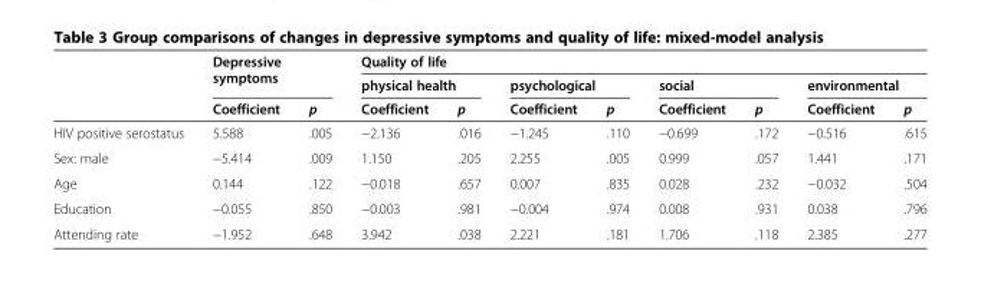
<table><thead><tr><td rowspan="3"></td><td rowspan="2" colspan="2">Depressive symptoms</td><td colspan="8">Quality of life</td></tr><tr><td colspan="2">physical health</td><td colspan="2">psychological</td><td colspan="2">social</td><td colspan="2">environmental</td></tr><tr><td>Coefficient</td><td>p</td><td>Coefficient</td><td>p</td><td>Coefficient</td><td>p</td><td>Coefficient</td><td>p</td><td>Coefficient</td><td>p</td></tr></thead><tbody><tr><td>HIV positive serostatus</td><td>5.588</td><td>.005</td><td>−2.136</td><td>.016</td><td>−1.245</td><td>.110</td><td>−0.699</td><td>.172</td><td>−0.516</td><td>.615</td></tr><tr><td>Sex: male</td><td>−5.414</td><td>.009</td><td>1.150</td><td>.205</td><td>2.255</td><td>.005</td><td>0.999</td><td>.057</td><td>1.441</td><td>.171</td></tr><tr><td>Age</td><td>0.144</td><td>.122</td><td>−0.018</td><td>.657</td><td>0.007</td><td>.835</td><td>0.028</td><td>.232</td><td>−0.032</td><td>.504</td></tr><tr><td>Education</td><td>−0.055</td><td>.850</td><td>−0.003</td><td>.981</td><td>−0.004</td><td>.974</td><td>0.008</td><td>.931</td><td>0.038</td><td>.796</td></tr><tr><td>Attending rate</td><td>−1.952</td><td>.648</td><td>3.942</td><td>.038</td><td>2.221</td><td>.181</td><td>1.706</td><td>.118</td><td>2.385</td><td>.277</td></tr></tbody></table>